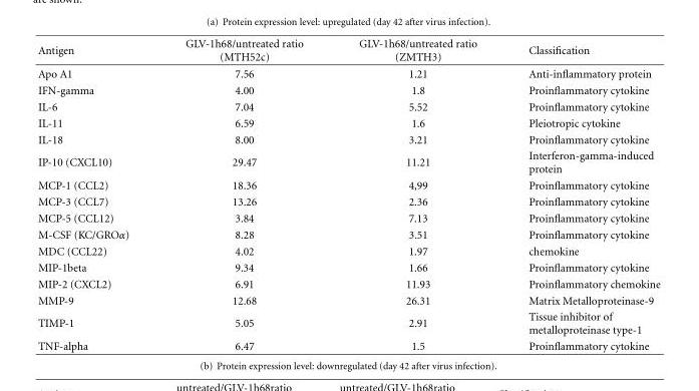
<table><thead><tr><td>Antigen</td><td>GLV-1h68/untreated ratio (MTH52c)</td><td>GLV-1h68/untreated ratio (ZMTH3)</td><td>Classification</td></tr></thead><tbody><tr><td>Apo A1</td><td>7.56</td><td>1.21</td><td>Anti-inflammatory protein</td></tr><tr><td>IFN-gamma</td><td>4.00</td><td>1.8</td><td>Proinflammatory cytokine</td></tr><tr><td>IL-6</td><td>7.04</td><td>5.52</td><td>Proinflammatory cytokine</td></tr><tr><td>IL-11</td><td>6.59</td><td>1.6</td><td>Pleiotropic cytokine</td></tr><tr><td>IL-18</td><td>8.00</td><td>3.21</td><td>Proinflammatory cytokine</td></tr><tr><td>IP-10 (CXCL10)</td><td>29.47</td><td>11.21</td><td>Interferon-gamma-induced protein</td></tr><tr><td>MCP-1 (CCL2)</td><td>18.36</td><td>4,99</td><td>Proinflammatory cytokine</td></tr><tr><td>MCP-3 (CCL7)</td><td>13.26</td><td>2.36</td><td>Proinflammatory cytokine</td></tr><tr><td>MCP-5 (CCL12)</td><td>3.84</td><td>7.13</td><td>Proinflammatory cytokine</td></tr><tr><td>M-CSF (KC/GROα)</td><td>8.28</td><td>3.51</td><td>Proinflammatory cytokine</td></tr><tr><td>MDC (CCL22)</td><td>4.02</td><td>1.97</td><td>chemokine</td></tr><tr><td>MIP-1beta</td><td>9.34</td><td>1.66</td><td>Proinflammatory cytokine</td></tr><tr><td>MIP-2 (CXCL2)</td><td>6.91</td><td>11.93</td><td>Proinflammatory chemokine</td></tr><tr><td>MMP-9</td><td>12.68</td><td>26.31</td><td>Matrix Metalloproteinase-9</td></tr><tr><td>TIMP-1</td><td>5.05</td><td>2.91</td><td>Tissue inhibitor of metalloproteinase type-1</td></tr><tr><td>TNF-alpha</td><td>6.47</td><td>1.5</td><td>Proinflammatory cytokine</td></tr></tbody></table>